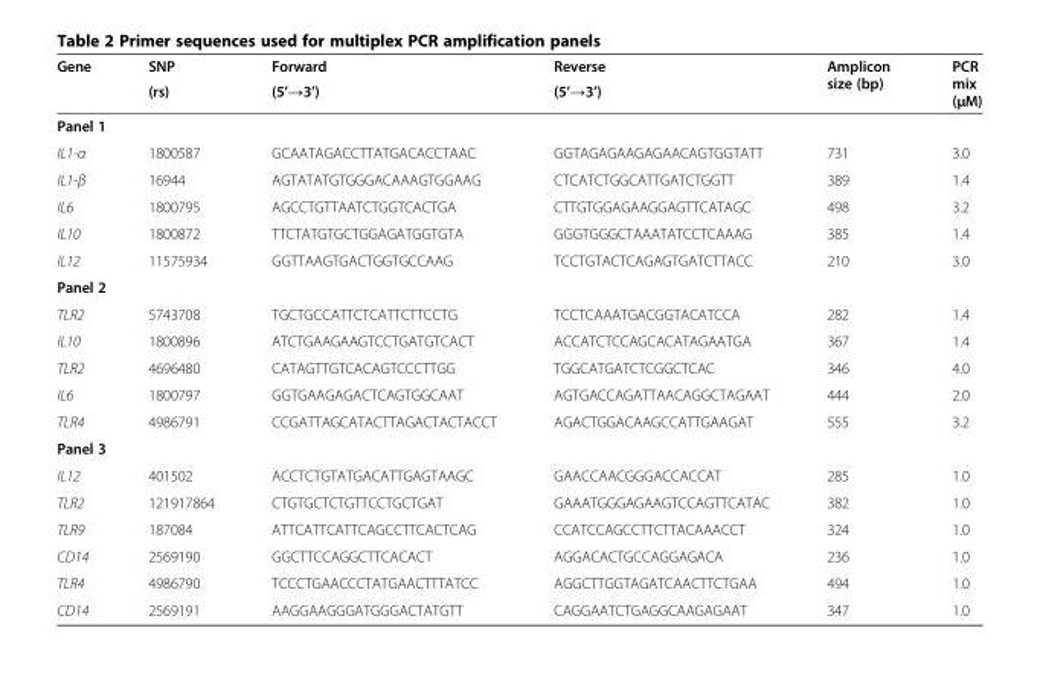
<table><thead><tr><td>Gene</td><td>SNP (rs)</td><td>Forward (5’→3’)</td><td>Reverse (5’→3’)</td><td>Amplicon size (bp)</td><td>PCR mix (μM)</td></tr></thead><tbody><tr><td colspan="6">Panel 1</td></tr><tr><td>IL1-α</td><td>1800587</td><td>GCAATAGACCTTATGACACCTAAC</td><td>GGTAGAGAAGAGAACAGTGGTATT</td><td>731</td><td>3.0</td></tr><tr><td>IL1-β</td><td>16944</td><td>AGTATATGTGGGACAAAGTGGAAG</td><td>CTCATCTGGCATTGATCTGGTT</td><td>389</td><td>1.4</td></tr><tr><td>IL6</td><td>1800795</td><td>AGCCTGTTAATCTGGTCACTGA</td><td>CTTGTGGAGAAGGAGTTCATAGC</td><td>498</td><td>3.2</td></tr><tr><td>IL10</td><td>1800872</td><td>TTCTATGTGCTGGAGATGGTGTA</td><td>GGGTGGGCTAAATATCCTCAAAG</td><td>385</td><td>1.4</td></tr><tr><td>IL12</td><td>11575934</td><td>GGTTAAGTGACTGGTGCCAAG</td><td>TCCTGTACTCAGAGTGATCTTACC</td><td>210</td><td>3.0</td></tr><tr><td colspan="6">Panel 2</td></tr><tr><td>TLR2</td><td>5743708</td><td>TGCTGCCATTCTCATTCTTCCTG</td><td>TCCTCAAATGACGGTACATCCA</td><td>282</td><td>1.4</td></tr><tr><td>IL10</td><td>1800896</td><td>ATCTGAAGAAGTCCTGATGTCACT</td><td>ACCATCTCCAGCACATAGAATGA</td><td>367</td><td>1.4</td></tr><tr><td>TLR2</td><td>4696480</td><td>CATAGTTGTCACAGTCCCTTGG</td><td>TGGCATGATCTCGGCTCAC</td><td>346</td><td>4.0</td></tr><tr><td>IL6</td><td>1800797</td><td>GGTGAAGAGACTCAGTGGCAAT</td><td>AGTGACCAGATTAACAGGCTAGAAT</td><td>444</td><td>2.0</td></tr><tr><td>TLR4</td><td>4986791</td><td>CCGATTAGCATACTTAGACTACTACCT</td><td>AGACTGGACAAGCCATTGAAGAT</td><td>555</td><td>3.2</td></tr><tr><td colspan="6">Panel 3</td></tr><tr><td>IL12</td><td>401502</td><td>ACCTCTGTATGACATTGAGTAAGC</td><td>GAACCAACGGGACCACCAT</td><td>285</td><td>1.0</td></tr><tr><td>TLR2</td><td>121917864</td><td>CTGTGCTCTGTTCCTGCTGAT</td><td>GAAATGGGAGAAGTCCAGTTCATAC</td><td>382</td><td>1.0</td></tr><tr><td>TLR9</td><td>187084</td><td>ATTCATTCATTCAGCCTTCACTCAG</td><td>CCATCCAGCCTTCTTACAAACCT</td><td>324</td><td>1.0</td></tr><tr><td>CD14</td><td>2569190</td><td>GGCTTCCAGGCTTCACACT</td><td>AGGACACTGCCAGGAGACA</td><td>236</td><td>1.0</td></tr><tr><td>TLR4</td><td>4986790</td><td>TCCCTGAACCCTATGAACTTTATCC</td><td>AGGCTTGGTAGATCAACTTCTGAA</td><td>494</td><td>1.0</td></tr><tr><td>CD14</td><td>2569191</td><td>AAGGAAGGGATGGGACTATGTT</td><td>CAGGAATCTGAGGCAAGAGAAT</td><td>347</td><td>1.0</td></tr></tbody></table>